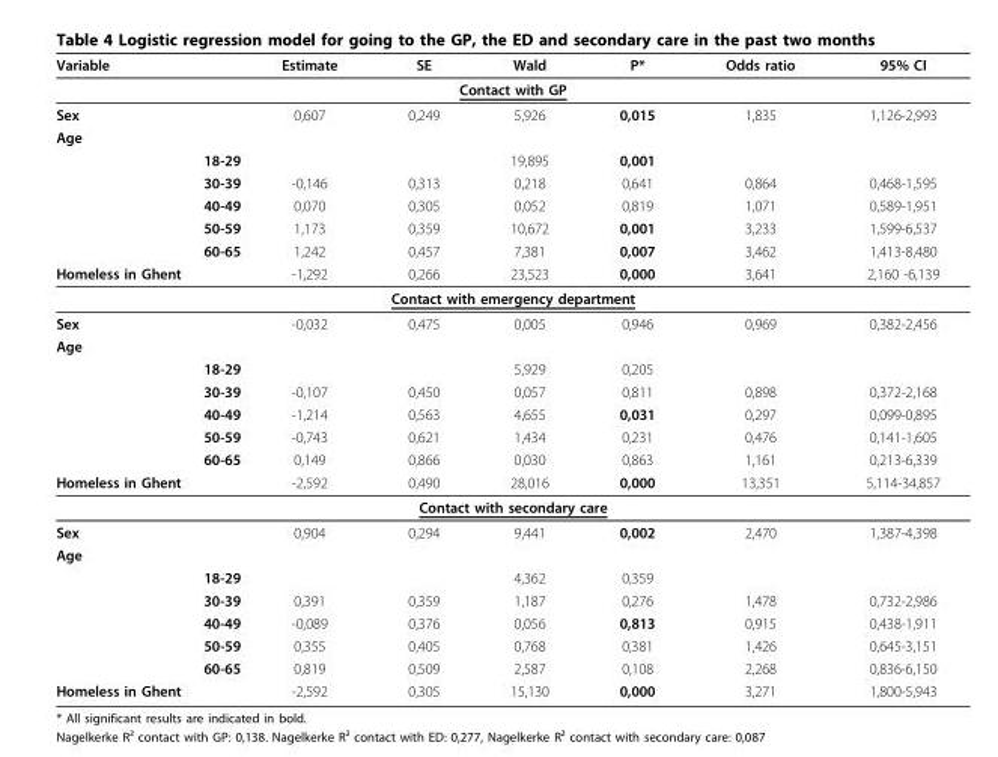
<table><thead><tr><td>Variable</td><td>Estimate</td><td>SE</td><td>Wald</td><td>P*</td><td>Odds ratio</td><td>95% CI</td></tr></thead><tbody><tr><td colspan="7">Contact with GP</td></tr><tr><td>Sex</td><td>0,607</td><td>0,249</td><td>5,926</td><td>0,015</td><td>1,835</td><td>1,126-2,993</td></tr><tr><td colspan="7">Age</td></tr><tr><td>18-29</td><td></td><td></td><td>19,895</td><td>0,001</td><td></td><td></td></tr><tr><td>30-39</td><td>-0,146</td><td>0,313</td><td>0,218</td><td>0,641</td><td>0,864</td><td>0,468-1,595</td></tr><tr><td>40-49</td><td>0,070</td><td>0,305</td><td>0,052</td><td>0,819</td><td>1,071</td><td>0,589-1,951</td></tr><tr><td>50-59</td><td>1,173</td><td>0,359</td><td>10,672</td><td>0,001</td><td>3,233</td><td>1,599-6,537</td></tr><tr><td>60-65</td><td>1,242</td><td>0,457</td><td>7,381</td><td>0,007</td><td>3,462</td><td>1,413-8,480</td></tr><tr><td>Homeless in Ghent</td><td>-1,292</td><td>0,266</td><td>23,523</td><td>0,000</td><td>3,641</td><td>2,160 -6,139</td></tr><tr><td colspan="7">Contact with emergency department</td></tr><tr><td>Sex</td><td>-0,032</td><td>0,475</td><td>0,005</td><td>0,946</td><td>0,969</td><td>0,382-2,456</td></tr><tr><td colspan="7">Age</td></tr><tr><td>18-29</td><td></td><td></td><td>5,929</td><td>0,205</td><td></td><td></td></tr><tr><td>30-39</td><td>-0,107</td><td>0,450</td><td>0,057</td><td>0,811</td><td>0,898</td><td>0,372-2,168</td></tr><tr><td>40-49</td><td>-1,214</td><td>0,563</td><td>4,655</td><td>0,031</td><td>0,297</td><td>0,099-0,895</td></tr><tr><td>50-59</td><td>-0,743</td><td>0,621</td><td>1,434</td><td>0,231</td><td>0,476</td><td>0,141-1,605</td></tr><tr><td>60-65</td><td>0,149</td><td>0,866</td><td>0,030</td><td>0,863</td><td>1,161</td><td>0,213-6,339</td></tr><tr><td>Homeless in Ghent</td><td>-2,592</td><td>0,490</td><td>28,016</td><td>0,000</td><td>13,351</td><td>5,114-34,857</td></tr><tr><td colspan="7">Contact with secondary care</td></tr><tr><td>Sex</td><td>0,904</td><td>0,294</td><td>9,441</td><td>0,002</td><td>2,470</td><td>1,387-4,398</td></tr><tr><td colspan="7">Age</td></tr><tr><td>18-29</td><td></td><td></td><td>4,362</td><td>0,359</td><td></td><td></td></tr><tr><td>30-39</td><td>0,391</td><td>0,359</td><td>1,187</td><td>0,276</td><td>1,478</td><td>0,732-2,986</td></tr><tr><td>40-49</td><td>-0,089</td><td>0,376</td><td>0,056</td><td>0,813</td><td>0,915</td><td>0,438-1,911</td></tr><tr><td>50-59</td><td>0,355</td><td>0,405</td><td>0,768</td><td>0,381</td><td>1,426</td><td>0,645-3,151</td></tr><tr><td>60-65</td><td>0,819</td><td>0,509</td><td>2,587</td><td>0,108</td><td>2,268</td><td>0,836-6,150</td></tr><tr><td>Homeless in Ghent</td><td>-2,592</td><td>0,305</td><td>15,130</td><td>0,000</td><td>3,271</td><td>1,800-5,943</td></tr></tbody></table>